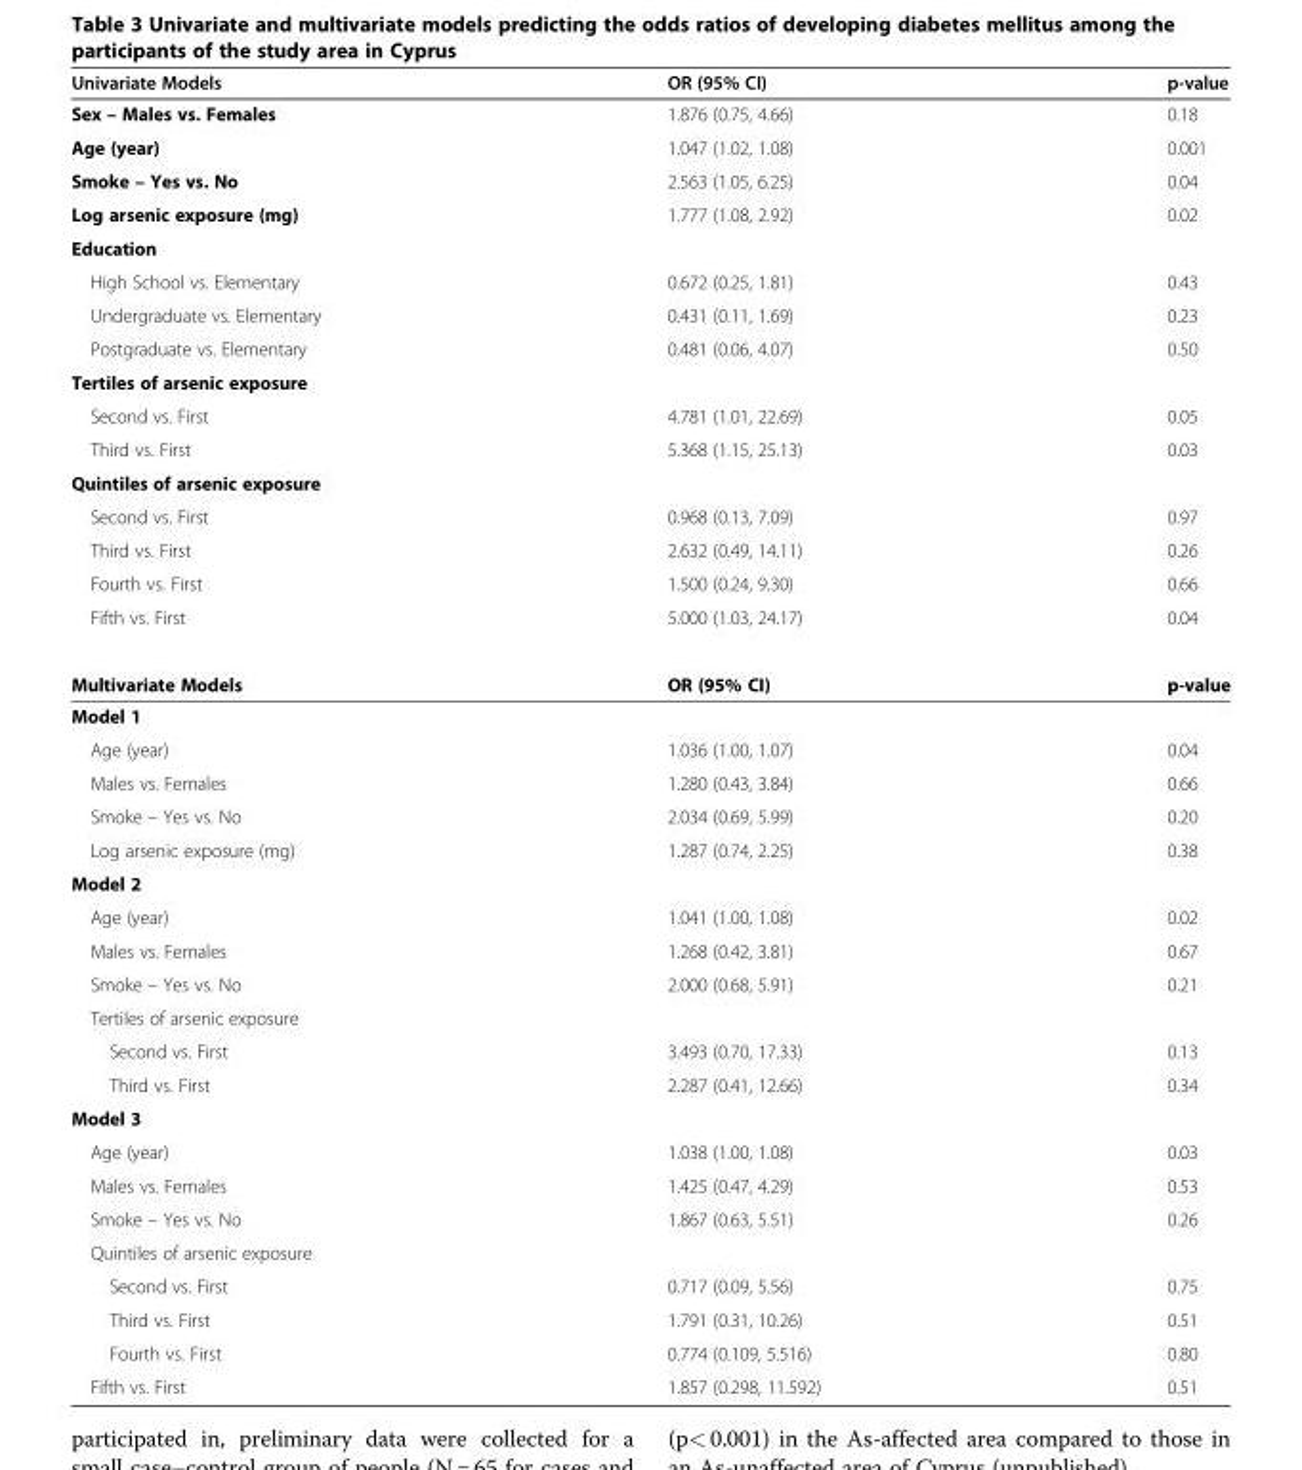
<table><thead><tr><td>Univariate Models</td><td>OR (95% CI)</td><td>p-value</td></tr></thead><tbody><tr><td>Sex – Males vs. Females</td><td>1.876 (0.75, 4.66)</td><td>0.18</td></tr><tr><td>Age (year)</td><td>1.047 (1.02, 1.08)</td><td>0.001</td></tr><tr><td>Smoke – Yes vs. No</td><td>2.563 (1.05, 6.25)</td><td>0.04</td></tr><tr><td>Log arsenic exposure (mg)</td><td>1.777 (1.08, 2.92)</td><td>0.02</td></tr><tr><td colspan="3">Education</td></tr><tr><td>High School vs. Elementary</td><td>0.672 (0.25, 1.81)</td><td>0.43</td></tr><tr><td>Undergraduate vs. Elementary</td><td>0.431 (0.11, 1.69)</td><td>0.23</td></tr><tr><td>Postgraduate vs. Elementary</td><td>0.481 (0.06, 4.07)</td><td>0.50</td></tr><tr><td colspan="3">Tertiles of arsenic exposure</td></tr><tr><td>Second vs. First</td><td>4.781 (1.01, 22.69)</td><td>0.05</td></tr><tr><td>Third vs. First</td><td>5.368 (1.15, 25.13)</td><td>0.03</td></tr><tr><td colspan="3">Quintiles of arsenic exposure</td></tr><tr><td>Second vs. First</td><td>0.968 (0.13, 7.09)</td><td>0.97</td></tr><tr><td>Third vs. First</td><td>2.632 (0.49, 14.11)</td><td>0.26</td></tr><tr><td>Fourth vs. First</td><td>1.500 (0.24, 9.30)</td><td>0.66</td></tr><tr><td>Fifth vs. First</td><td>5.000 (1.03, 24.17)</td><td>0.04</td></tr><tr><td>Multivariate Models</td><td>OR (95% CI)</td><td>p-value</td></tr><tr><td colspan="3">Model 1</td></tr><tr><td>Age (year)</td><td>1.036 (1.00, 1.07)</td><td>0.04</td></tr><tr><td>Males vs. Females</td><td>1.280 (0.43, 3.84)</td><td>0.66</td></tr><tr><td>Smoke – Yes vs. No</td><td>2.034 (0.69, 5.99)</td><td>0.20</td></tr><tr><td>Log arsenic exposure (mg)</td><td>1.287 (0.74, 2.25)</td><td>0.38</td></tr><tr><td colspan="3">Model 2</td></tr><tr><td>Age (year)</td><td>1.041 (1.00, 1.08)</td><td>0.02</td></tr><tr><td>Males vs. Females</td><td>1.268 (0.42, 3.81)</td><td>0.67</td></tr><tr><td>Smoke – Yes vs. No</td><td>2.000 (0.68, 5.91)</td><td>0.21</td></tr><tr><td colspan="3">Tertiles of arsenic exposure</td></tr><tr><td>Second vs. First</td><td>3.493 (0.70, 17.33)</td><td>0.13</td></tr><tr><td>Third vs. First</td><td>2.287 (0.41, 12.66)</td><td>0.34</td></tr><tr><td colspan="3">Model 3</td></tr><tr><td>Age (year)</td><td>1.038 (1.00, 1.08)</td><td>0.03</td></tr><tr><td>Males vs. Females</td><td>1.425 (0.47, 4.29)</td><td>0.53</td></tr><tr><td>Smoke – Yes vs. No</td><td>1.867 (0.63, 5.51)</td><td>0.26</td></tr><tr><td colspan="3">Quintiles of arsenic exposure</td></tr><tr><td>Second vs. First</td><td>0.717 (0.09, 5.56)</td><td>0.75</td></tr><tr><td>Third vs. First</td><td>1.791 (0.31, 10.26)</td><td>0.51</td></tr><tr><td>Fourth vs. First</td><td>0.774 (0.109, 5.516)</td><td>0.80</td></tr><tr><td>Fifth vs. First</td><td>1.857 (0.298, 11.592)</td><td>0.51</td></tr></tbody></table>